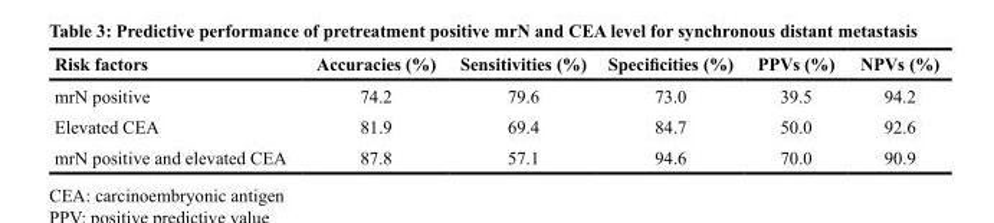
<table><thead><tr><td>Risk factors</td><td>Accuracies (%)</td><td>Sensitivities (%)</td><td>Specificities (%)</td><td>PPVs (%)</td><td>NPVs (%)</td></tr></thead><tbody><tr><td>mrN positive</td><td>74.2</td><td>79.6</td><td>73.0</td><td>39.5</td><td>94.2</td></tr><tr><td>Elevated CEA</td><td>81.9</td><td>69.4</td><td>84.7</td><td>50.0</td><td>92.6</td></tr><tr><td>mrN positive and elevated CEA</td><td>87.8</td><td>57.1</td><td>94.6</td><td>70.0</td><td>90.9</td></tr></tbody></table>